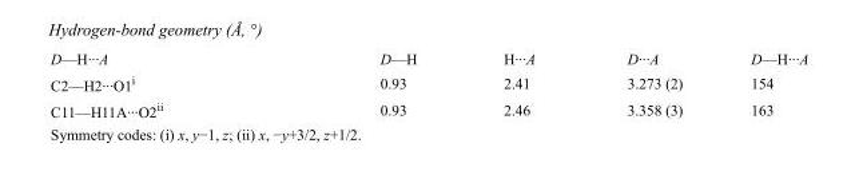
<table><tbody><tr><td>D—H···A</td><td>D—H</td><td>H···A</td><td>D···A</td><td>D—H···A</td></tr><tr><td>C2—H2···O1<sup>i</sup></td><td>0.93</td><td>2.41</td><td>3.273 (2)</td><td>154</td></tr><tr><td>C11—H11A···O2<sup>ii</sup></td><td>0.93</td><td>2.46</td><td>3.358 (3)</td><td>163</td></tr></tbody></table>